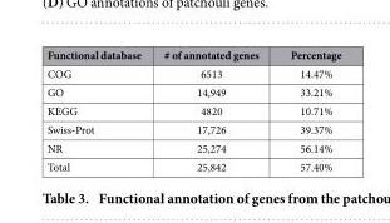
<table><thead><tr><td>Functional database</td><td># of annotated genes</td><td>Percentage</td></tr></thead><tbody><tr><td>COG</td><td>6513</td><td>14.47%</td></tr><tr><td>GO</td><td>14,949</td><td>33.21%</td></tr><tr><td>KEGG</td><td>4820</td><td>10.71%</td></tr><tr><td>Swiss-Prot</td><td>17,726</td><td>39.37%</td></tr><tr><td>NR</td><td>25,274</td><td>56.14%</td></tr><tr><td>Total</td><td>25,842</td><td>57.40%</td></tr></tbody></table>